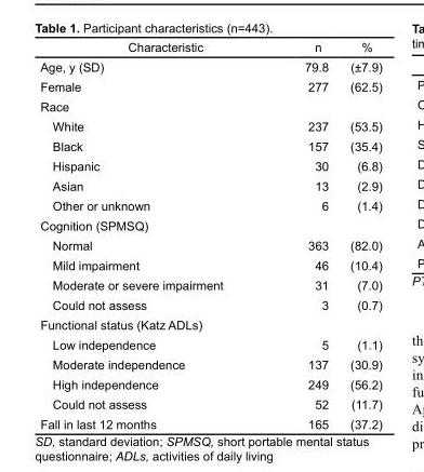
<table><thead><tr><td>Characteristic</td><td>n</td><td>%</td></tr></thead><tbody><tr><td>Age, y (SD)</td><td>79.8</td><td>(±7.9)</td></tr><tr><td>Female</td><td>277</td><td>(62.5)</td></tr><tr><td colspan="3">Race</td></tr><tr><td>White</td><td>237</td><td>(53.5)</td></tr><tr><td>Black</td><td>157</td><td>(35.4)</td></tr><tr><td>Hispanic</td><td>30</td><td>(6.8)</td></tr><tr><td>Asian</td><td>13</td><td>(2.9)</td></tr><tr><td>Other or unknown</td><td>6</td><td>(1.4)</td></tr><tr><td colspan="3">Cognition (SPMSQ)</td></tr><tr><td>Normal</td><td>363</td><td>(82.0)</td></tr><tr><td>Mild impairment</td><td>46</td><td>(10.4)</td></tr><tr><td>Moderate or severe impairment</td><td>31</td><td>(7.0)</td></tr><tr><td>Could not assess</td><td>3</td><td>(0.7)</td></tr><tr><td colspan="3">Functional status (Katz ADLs)</td></tr><tr><td>Low independence</td><td>5</td><td>(1.1)</td></tr><tr><td>Moderate independence</td><td>137</td><td>(30.9)</td></tr><tr><td>High independence</td><td>249</td><td>(56.2)</td></tr><tr><td>Could not assess</td><td>52</td><td>(11.7)</td></tr><tr><td>Fall in last 12 months</td><td>165</td><td>(37.2)</td></tr></tbody></table>